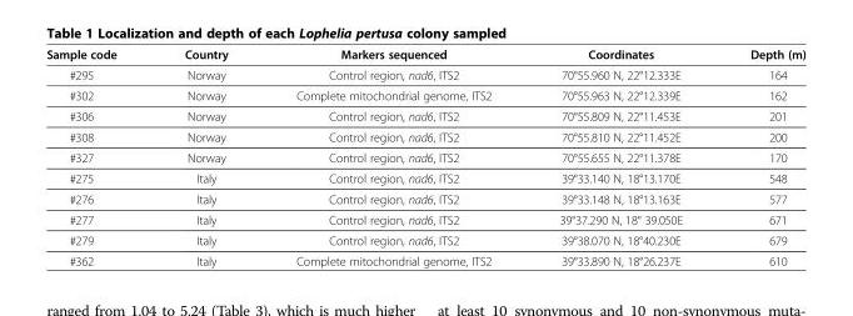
<table><thead><tr><td>Sample code</td><td>Country</td><td>Markers sequenced</td><td>Coordinates</td><td>Depth (m)</td></tr></thead><tbody><tr><td>#295</td><td>Norway</td><td>Control region, nad6, ITS2</td><td>70°55.960 N, 22°12.333E</td><td>164</td></tr><tr><td>#302</td><td>Norway</td><td>Complete mitochondrial genome, ITS2</td><td>70°55.963 N, 22°12.339E</td><td>162</td></tr><tr><td>#306</td><td>Norway</td><td>Control region, nad6, ITS2</td><td>70°55.809 N, 22°11.453E</td><td>201</td></tr><tr><td>#308</td><td>Norway</td><td>Control region, nad6, ITS2</td><td>70°55.810 N, 22°11.452E</td><td>200</td></tr><tr><td>#327</td><td>Norway</td><td>Control region, nad6, ITS2</td><td>70°55.655 N, 22°11.378E</td><td>170</td></tr><tr><td>#275</td><td>Italy</td><td>Control region, nad6, ITS2</td><td>39°33.140 N, 18°13.170E</td><td>548</td></tr><tr><td>#276</td><td>Italy</td><td>Control region, nad6, ITS2</td><td>39°33.148 N, 18°13.163E</td><td>577</td></tr><tr><td>#277</td><td>Italy</td><td>Control region, nad6, ITS2</td><td>39°37.290 N, 18° 39.050E</td><td>671</td></tr><tr><td>#279</td><td>Italy</td><td>Control region, nad6, ITS2</td><td>39°38.070 N, 18°40.230E</td><td>679</td></tr><tr><td>#362</td><td>Italy</td><td>Complete mitochondrial genome, ITS2</td><td>39°33.890 N, 18°26.237E</td><td>610</td></tr></tbody></table>